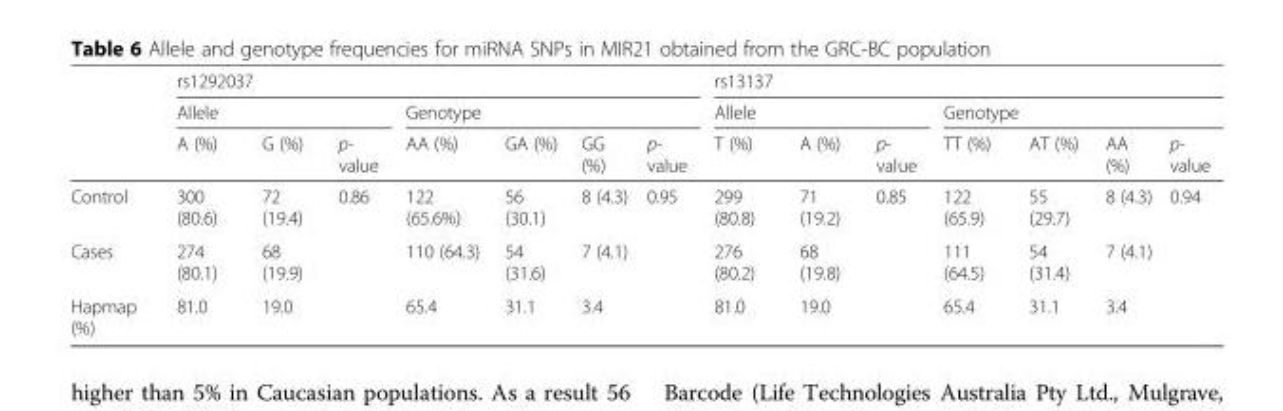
<table><thead><tr><td rowspan="3"></td><td colspan="7">rs1292037</td><td colspan="7">rs13137</td></tr><tr><td colspan="3">Allele</td><td colspan="4">Genotype</td><td colspan="3">Allele</td><td colspan="4">Genotype</td></tr><tr><td>A (%)</td><td>G (%)</td><td>p- value</td><td>AA (%)</td><td>GA (%)</td><td>GG (%)</td><td>p- value</td><td>T (%)</td><td>A (%)</td><td>p- value</td><td>TT (%)</td><td>AT (%)</td><td>AA (%)</td><td>p- value</td></tr></thead><tbody><tr><td>Control</td><td>300 (80.6)</td><td>72 (19.4)</td><td rowspan="2">0.86</td><td>122 (65.6%)</td><td>56 (30.1)</td><td>8 (4.3)</td><td rowspan="2">0.95</td><td>299 (80.8)</td><td>71 (19.2)</td><td rowspan="2">0.85</td><td>122 (65.9)</td><td>55 (29.7)</td><td>8 (4.3)</td><td rowspan="2">0.94</td></tr><tr><td>Cases</td><td>274 (80.1)</td><td>68 (19.9)</td><td>110 (64.3)</td><td>54 (31.6)</td><td>7 (4.1)</td><td>276 (80.2)</td><td>68 (19.8)</td><td>111 (64.5)</td><td>54 (31.4)</td><td>7 (4.1)</td></tr><tr><td>Hapmap (%)</td><td>81.0</td><td>19.0</td><td></td><td>65.4</td><td>31.1</td><td>3.4</td><td></td><td>81.0</td><td>19.0</td><td></td><td>65.4</td><td>31.1</td><td>3.4</td><td></td></tr></tbody></table>